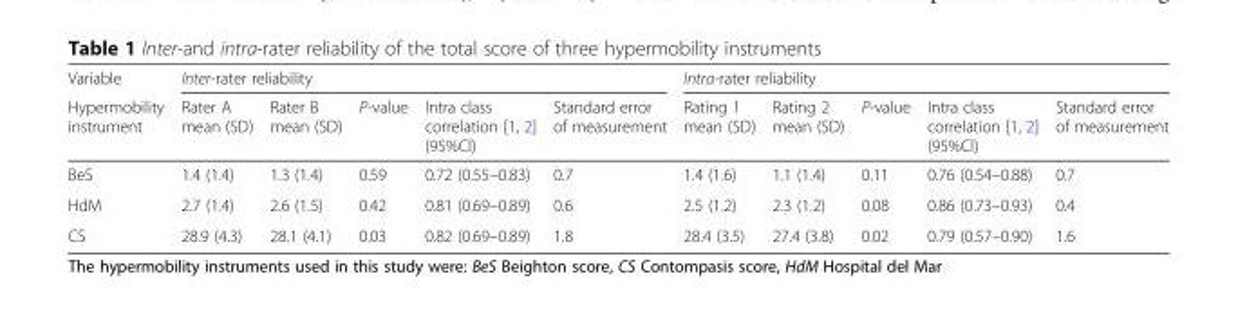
<table><thead><tr><td rowspan="2">Variable Hypermobility instrument</td><td colspan="5">Inter-rater reliability</td><td colspan="5">Intra-rater reliability</td></tr><tr><td>Rater A mean (SD)</td><td>Rater B mean (SD)</td><td>P-value</td><td>Intra class correlation [1, 2] (95%Cl)</td><td>Standard error of measurement</td><td>Rating 1 mean (SD)</td><td>Rating 2 mean (SD)</td><td>P-value</td><td>Intra class correlation [1, 2] (95%Cl)</td><td>Standard error of measurement</td></tr></thead><tbody><tr><td>BeS</td><td>1.4 (1.4)</td><td>1.3 (1.4)</td><td>0.59</td><td>0.72 (0.55–0.83)</td><td>0.7</td><td>1.4 (1.6)</td><td>1.1 (1.4)</td><td>0.11</td><td>0.76 (0.54–0.88)</td><td>0.7</td></tr><tr><td>HdM</td><td>2.7 (1.4)</td><td>2.6 (1.5)</td><td>0.42</td><td>0.81 (0.69–0.89)</td><td>0.6</td><td>2.5 (1.2)</td><td>2.3 (1.2)</td><td>0.08</td><td>0.86 (0.73–0.93)</td><td>0.4</td></tr><tr><td>CS</td><td>28.9 (4.3)</td><td>28.1 (4.1)</td><td>0.03</td><td>0.82 (0.69–0.89)</td><td>1.8</td><td>28.4 (3.5)</td><td>27.4 (3.8)</td><td>0.02</td><td>0.79 (0.57–0.90)</td><td>1.6</td></tr></tbody></table>